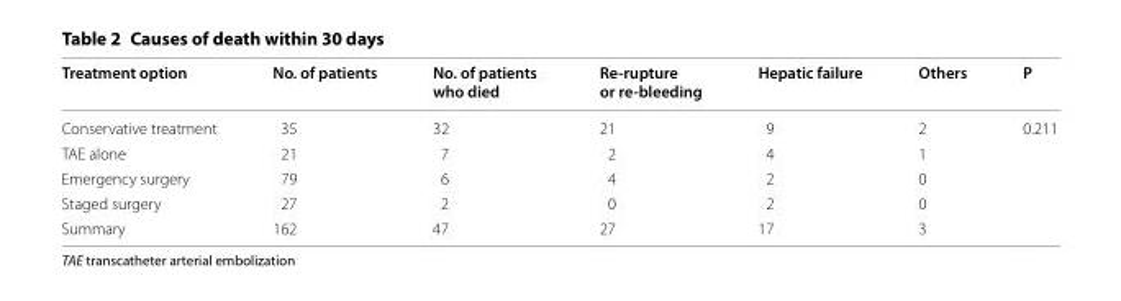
<table><thead><tr><td>Treatment option</td><td>No. of patients</td><td>No. of patients who died</td><td>Re-rupture or re-bleeding</td><td>Hepatic failure</td><td>Others</td><td>P</td></tr></thead><tbody><tr><td>Conservative treatment</td><td>35</td><td>32</td><td>21</td><td>9</td><td>2</td><td>0.211</td></tr><tr><td>TAE alone</td><td>21</td><td>7</td><td>2</td><td>4</td><td>1</td><td></td></tr><tr><td>Emergency surgery</td><td>79</td><td>6</td><td>4</td><td>2</td><td>0</td><td></td></tr><tr><td>Staged surgery</td><td>27</td><td>2</td><td>0</td><td>2</td><td>0</td><td></td></tr><tr><td>Summary</td><td>162</td><td>47</td><td>27</td><td>17</td><td>3</td><td></td></tr></tbody></table>